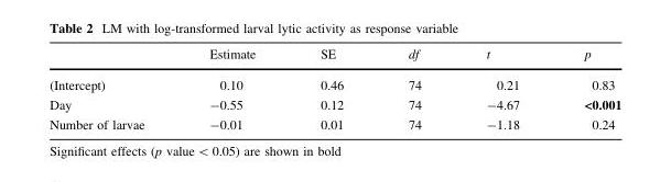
<table><thead><tr><td></td><td>Estimate</td><td>SE</td><td>df</td><td>t</td><td>p</td></tr></thead><tbody><tr><td>(Intercept)</td><td>0.10</td><td>0.46</td><td>74</td><td>0.21</td><td>0.83</td></tr><tr><td>Day</td><td>-0.55</td><td>0.12</td><td>74</td><td>-4.67</td><td>&lt;0.001</td></tr><tr><td>Number of larvae</td><td>-0.01</td><td>0.01</td><td>74</td><td>-1.18</td><td>0.24</td></tr></tbody></table>